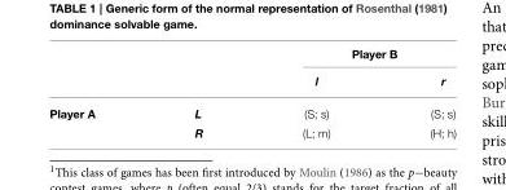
<table><thead><tr><td rowspan="2"></td><td rowspan="2"></td><td colspan="2">Player B</td></tr><tr><td>l</td><td>r</td></tr></thead><tbody><tr><td rowspan="2">Player A</td><td>L</td><td>(S; s)</td><td>(S; s)</td></tr><tr><td>R</td><td>(L; m)</td><td>(H; h)</td></tr></tbody></table>